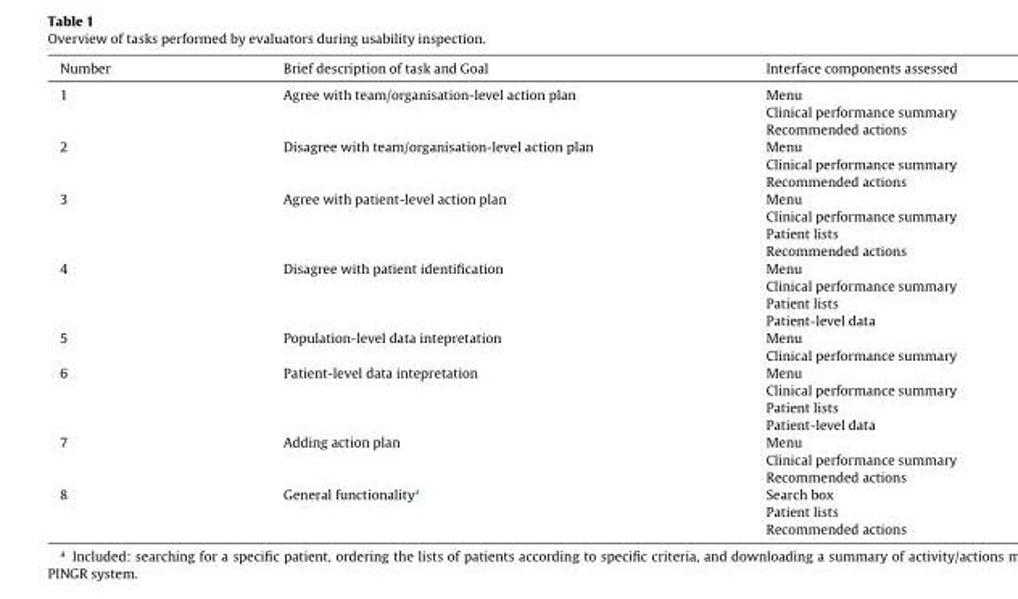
<table><thead><tr><td>Number</td><td>Brief description of task and Goal</td><td>Interface components assessed</td></tr></thead><tbody><tr><td>1</td><td>Agree with team/organisation-level action plan</td><td>Menu Clinical performance summary Recommended actions</td></tr><tr><td>2</td><td>Disagree with team/organisation-level action plan</td><td>Menu Clinical performance summary Recommended actions</td></tr><tr><td>3</td><td>Agree with patient-level action plan</td><td>Menu Clinical performance summary Patient lists Recommended actions</td></tr><tr><td>4</td><td>Disagree with patient identification</td><td>Menu Clinical performance summary Patient lists Patient-level data</td></tr><tr><td>5</td><td>Population-level data intepretation</td><td>Menu Clinical performance summary</td></tr><tr><td>6</td><td>Patient-level data intepretation</td><td>Menu Clinical performance summary Patient lists Patient-level data</td></tr><tr><td>7</td><td>Adding action plan</td><td>Menu Clinical performance summary Recommended actions</td></tr><tr><td>8</td><td>General functionality<sup>a</sup></td><td>Search box Patient lists Recommended actions</td></tr></tbody></table>